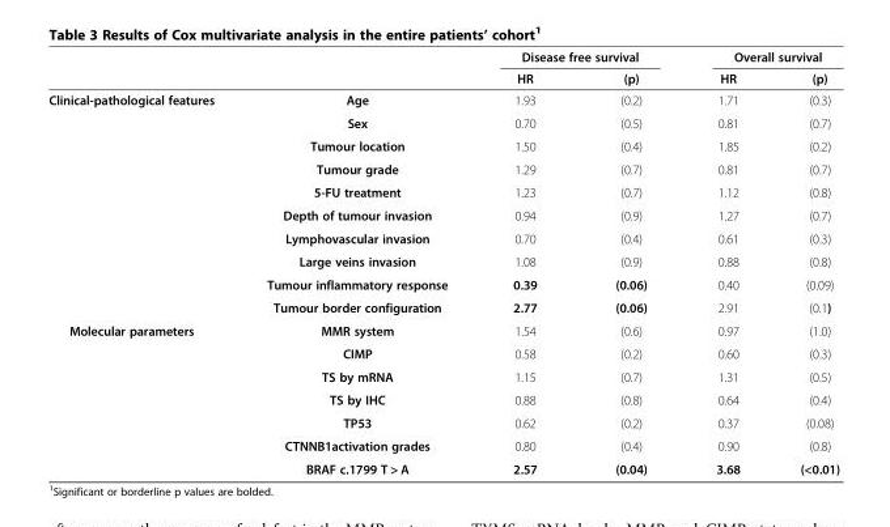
<table><thead><tr><td rowspan="2"></td><td rowspan="2"></td><td colspan="2">Disease free survival</td><td colspan="2">Overall survival</td></tr><tr><td>HR</td><td>(p)</td><td>HR</td><td>(p)</td></tr></thead><tbody><tr><td rowspan="10">Clinical-pathological features</td><td>Age</td><td>1.93</td><td>(0.2)</td><td>1.71</td><td>(0.3)</td></tr><tr><td>Sex</td><td>0.70</td><td>(0.5)</td><td>0.81</td><td>(0.7)</td></tr><tr><td>Tumour location</td><td>1.50</td><td>(0.4)</td><td>1.85</td><td>(0.2)</td></tr><tr><td>Tumour grade</td><td>1.29</td><td>(0.7)</td><td>0.81</td><td>(0.7)</td></tr><tr><td>5-FU treatment</td><td>1.23</td><td>(0.7)</td><td>1.12</td><td>(0.8)</td></tr><tr><td>Depth of tumour invasion</td><td>0.94</td><td>(0.9)</td><td>1.27</td><td>(0.7)</td></tr><tr><td>Lymphovascular invasion</td><td>0.70</td><td>(0.4)</td><td>0.61</td><td>(0.3)</td></tr><tr><td>Large veins invasion</td><td>1.08</td><td>(0.9)</td><td>0.88</td><td>(0.8)</td></tr><tr><td>Tumour inflammatory response</td><td>0.39</td><td>(0.06)</td><td>0.40</td><td>(0.09)</td></tr><tr><td>Tumour border configuration</td><td>2.77</td><td>(0.06)</td><td>2.91</td><td>(0.1)</td></tr><tr><td rowspan="7">Molecular parameters</td><td>MMR system</td><td>1.54</td><td>(0.6)</td><td>0.97</td><td>(1.0)</td></tr><tr><td>CIMP</td><td>0.58</td><td>(0.2)</td><td>0.60</td><td>(0.3)</td></tr><tr><td>TS by mRNA</td><td>1.15</td><td>(0.7)</td><td>1.31</td><td>(0.5)</td></tr><tr><td>TS by IHC</td><td>0.88</td><td>(0.8)</td><td>0.64</td><td>(0.4)</td></tr><tr><td>TP53</td><td>0.62</td><td>(0.2)</td><td>0.37</td><td>(0.08)</td></tr><tr><td>CTNNB1activation grades</td><td>0.80</td><td>(0.4)</td><td>0.90</td><td>(0.8)</td></tr><tr><td>BRAF c.1799 T &gt; A</td><td>2.57</td><td>(0.04)</td><td>3.68</td><td>(&lt;0.01)</td></tr></tbody></table>